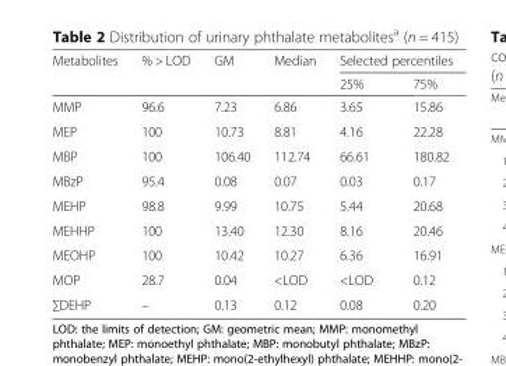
<table><thead><tr><td rowspan="2">Metabolites</td><td rowspan="2">% &gt; LOD</td><td rowspan="2">GM</td><td rowspan="2">Median</td><td colspan="2">Selected percentiles</td></tr><tr><td>25%</td><td>75%</td></tr></thead><tbody><tr><td>MMP</td><td>96.6</td><td>7.23</td><td>6.86</td><td>3.65</td><td>15.86</td></tr><tr><td>MEP</td><td>100</td><td>10.73</td><td>8.81</td><td>4.16</td><td>22.28</td></tr><tr><td>MBP</td><td>100</td><td>106.40</td><td>112.74</td><td>66.61</td><td>180.82</td></tr><tr><td>MBzP</td><td>95.4</td><td>0.08</td><td>0.07</td><td>0.03</td><td>0.17</td></tr><tr><td>MEHP</td><td>98.8</td><td>9.99</td><td>10.75</td><td>5.44</td><td>20.68</td></tr><tr><td>MEHHP</td><td>100</td><td>13.40</td><td>12.30</td><td>8.16</td><td>20.46</td></tr><tr><td>MEOHP</td><td>100</td><td>10.42</td><td>10.27</td><td>6.36</td><td>16.91</td></tr><tr><td>MOP</td><td>28.7</td><td>0.04</td><td>&lt;LOD</td><td>&lt;LOD</td><td>0.12</td></tr><tr><td>∑DEHP</td><td>–</td><td>0.13</td><td>0.12</td><td>0.08</td><td>0.20</td></tr></tbody></table>